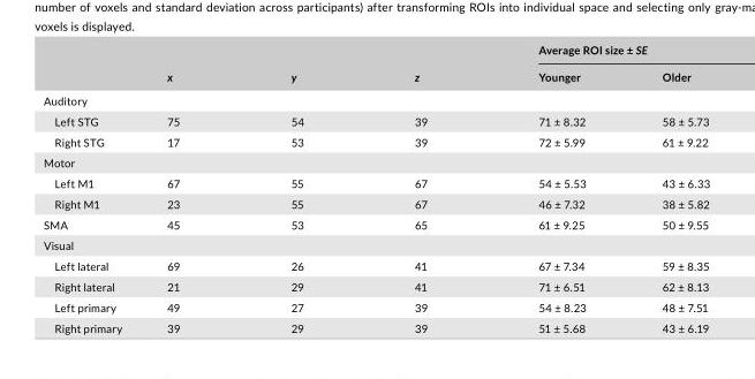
<table><thead><tr><td rowspan="2"></td><td rowspan="2">x</td><td rowspan="2">y</td><td rowspan="2">z</td><td colspan="2">Average ROI size ± SE</td></tr><tr><td>Younger</td><td>Older</td></tr></thead><tbody><tr><td colspan="6">Auditory</td></tr><tr><td>Left STG</td><td>75</td><td>54</td><td>39</td><td>71 ± 8.32</td><td>58 ± 5.73</td></tr><tr><td>Right STG</td><td>17</td><td>53</td><td>39</td><td>72 ± 5.99</td><td>61 ± 9.22</td></tr><tr><td colspan="6">Motor</td></tr><tr><td>Left M1</td><td>67</td><td>55</td><td>67</td><td>54 ± 5.53</td><td>43 ± 6.33</td></tr><tr><td>Right M1</td><td>23</td><td>55</td><td>67</td><td>46 ± 7.32</td><td>38 ± 5.82</td></tr><tr><td>SMA</td><td>45</td><td>53</td><td>65</td><td>61 ± 9.25</td><td>50 ± 9.55</td></tr><tr><td colspan="6">Visual</td></tr><tr><td>Left lateral</td><td>69</td><td>26</td><td>41</td><td>67 ± 7.34</td><td>59 ± 8.35</td></tr><tr><td>Right lateral</td><td>21</td><td>29</td><td>41</td><td>71 ± 6.51</td><td>62 ± 8.13</td></tr><tr><td>Left primary</td><td>49</td><td>27</td><td>39</td><td>54 ± 8.23</td><td>48 ± 7.51</td></tr><tr><td>Right primary</td><td>39</td><td>29</td><td>39</td><td>51 ± 5.68</td><td>43 ± 6.19</td></tr></tbody></table>